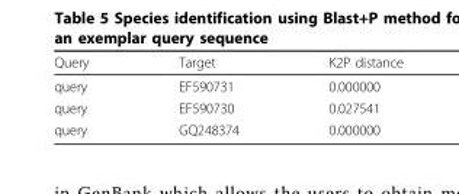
<table><thead><tr><td>Query</td><td>Target</td><td>K2P distance</td></tr></thead><tbody><tr><td>query</td><td>EF590731</td><td>0.000000</td></tr><tr><td>query</td><td>EF590730</td><td>0.027541</td></tr><tr><td>query</td><td>GQ248374</td><td>0.000000</td></tr></tbody></table>